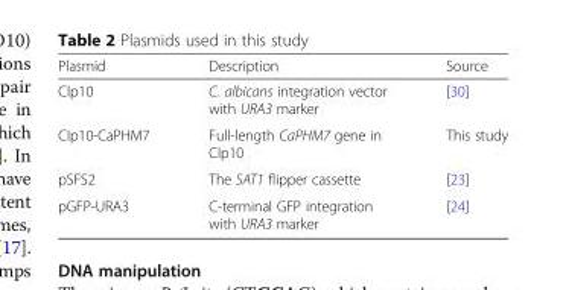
<table><thead><tr><td>Plasmid</td><td>Description</td><td>Source</td></tr></thead><tbody><tr><td>CIp10</td><td>C. albicans integration vector with URA3 marker</td><td>[30]</td></tr><tr><td>CIp10-CaPHM7</td><td>Full-length CaPHM7 gene in CIp10</td><td>This study</td></tr><tr><td>pSFS2</td><td>The SAT1 flipper cassette</td><td>[23]</td></tr><tr><td>pGFP-URA3</td><td>C-terminal GFP integration with URA3 marker</td><td>[24]</td></tr></tbody></table>